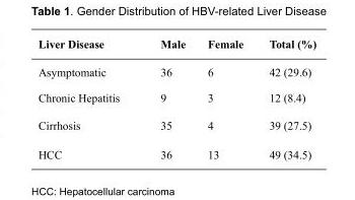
<table><thead><tr><td>Liver Disease</td><td>Male</td><td>Female</td><td>Total (%)</td></tr></thead><tbody><tr><td>Asymptomatic</td><td>36</td><td>6</td><td>42 (29.6)</td></tr><tr><td>Chronic Hepatitis</td><td>9</td><td>3</td><td>12 (8.4)</td></tr><tr><td>Cirrhosis</td><td>35</td><td>4</td><td>39 (27.5)</td></tr><tr><td>HCC</td><td>36</td><td>13</td><td>49 (34.5)</td></tr></tbody></table>